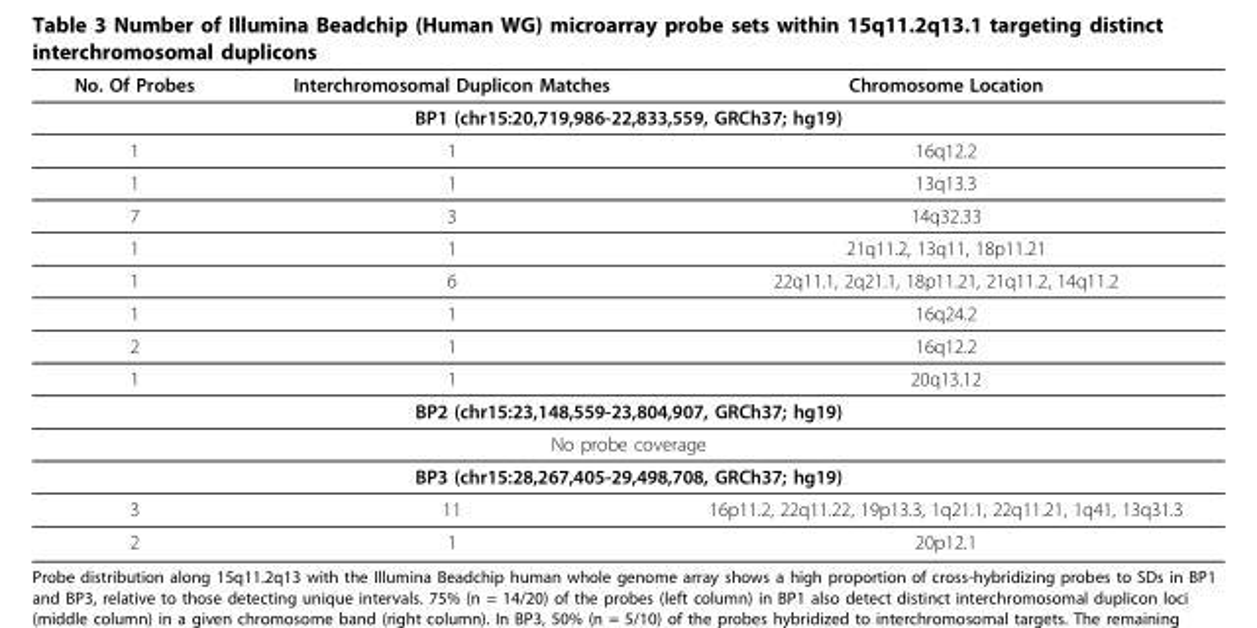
<table><thead><tr><td>No. Of Probes</td><td>Interchromosomal Duplicon Matches</td><td>Chromosome Location</td></tr></thead><tbody><tr><td colspan="3">BP1 (chr15:20,719,986-22,833,559, GRCh37; hg19)</td></tr><tr><td>1</td><td>1</td><td>16q12.2</td></tr><tr><td>1</td><td>1</td><td>13q13.3</td></tr><tr><td>7</td><td>3</td><td>14q32.33</td></tr><tr><td>1</td><td>1</td><td>21q11.2, 13q11, 18p11.21</td></tr><tr><td>1</td><td>6</td><td>22q11.1, 2q21.1, 18p11.21, 21q11.2, 14q11.2</td></tr><tr><td>1</td><td>1</td><td>16q24.2</td></tr><tr><td>2</td><td>1</td><td>16q12.2</td></tr><tr><td>1</td><td>1</td><td>20q13.12</td></tr><tr><td colspan="3">BP2 (chr15:23,148,559-23,804,907, GRCh37; hg19)</td></tr><tr><td colspan="3">No probe coverage</td></tr><tr><td colspan="3">BP3 (chr15:28,267,405-29,498,708, GRCh37; hg19)</td></tr><tr><td>3</td><td>11</td><td>16p11.2, 22q11.22, 19p13.3, 1q21.1, 22q11.21, 1q41, 13q31.3</td></tr><tr><td>2</td><td>1</td><td>20p12.1</td></tr></tbody></table>